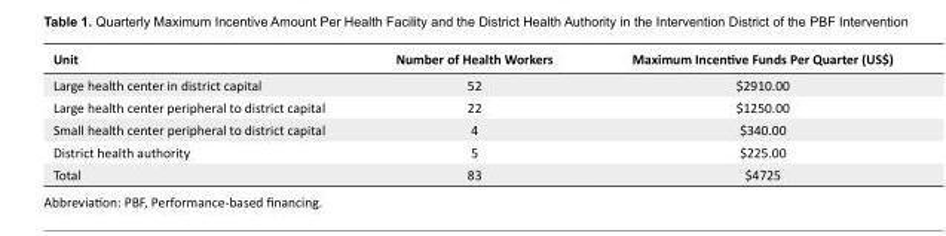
<table><tbody><tr><td>Unit</td><td>Number of Health Workers</td><td>Maximum Incentive Funds Per Quarter (US$)</td></tr><tr><td>Large health center in district capital</td><td>52</td><td>$2910.00</td></tr><tr><td>Large health center peripheral to district capital</td><td>22</td><td>$1250.00</td></tr><tr><td>Small health center peripheral to district capital</td><td>4</td><td>$340.00</td></tr><tr><td>District health authority</td><td>5</td><td>$225.00</td></tr><tr><td>Total</td><td>83</td><td>$4725</td></tr></tbody></table>